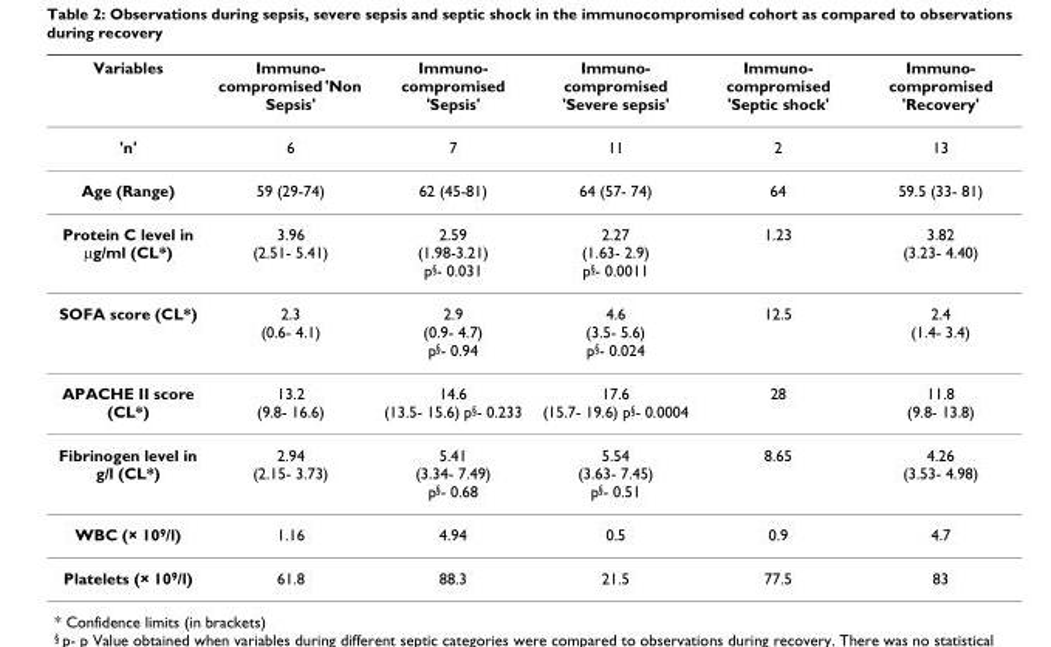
<table><thead><tr><td>Variables</td><td>Immuno- compromised &#x27;Non Sepsis&#x27;</td><td>Immuno- compromised &#x27;Sepsis&#x27;</td><td>Immuno- compromised &#x27;Severe sepsis&#x27;</td><td>Immuno- compromised &#x27;Septic shock&#x27;</td><td>Immuno- compromised &#x27;Recovery&#x27;</td></tr></thead><tbody><tr><td>&#x27;n&#x27;</td><td>6</td><td>7</td><td>11</td><td>2</td><td>13</td></tr><tr><td>Age (Range)</td><td>59 (29-74)</td><td>62 (45-81)</td><td>64 (57- 74)</td><td>64</td><td>59.5 (33- 81)</td></tr><tr><td>Protein C level in μg/ml (CL*)</td><td>3.96 (2.51- 5.41)</td><td>2.59 (1.98-3.21) p<sup>§</sup>- 0.031</td><td>2.27 (1.63- 2.9) p<sup>§</sup>- 0.0011</td><td>1.23</td><td>3.82 (3.23- 4.40)</td></tr><tr><td>SOFA score (CL*)</td><td>2.3 (0.6- 4.1)</td><td>2.9 (0.9- 4.7) p<sup>§</sup>- 0.94</td><td>4.6 (3.5- 5.6) p<sup>§</sup>- 0.024</td><td>12.5</td><td>2.4 (1.4- 3.4)</td></tr><tr><td>APACHE II score (CL*)</td><td>13.2 (9.8- 16.6)</td><td>14.6 (13.5- 15.6) p<sup>§</sup>- 0.233</td><td>17.6 (15.7- 19.6) p<sup>§</sup>- 0.0004</td><td>28</td><td>11.8 (9.8- 13.8)</td></tr><tr><td>Fibrinogen level in g/l (CL*)</td><td>2.94 (2.15- 3.73)</td><td>5.41 (3.34- 7.49) p<sup>§</sup>- 0.68</td><td>5.54 (3.63- 7.45) p<sup>§</sup>- 0.51</td><td>8.65</td><td>4.26 (3.53- 4.98)</td></tr><tr><td>WBC (× 10<sup>9</sup>/l)</td><td>1.16</td><td>4.94</td><td>0.5</td><td>0.9</td><td>4.7</td></tr><tr><td>Platelets (× 10<sup>9</sup>/l)</td><td>61.8</td><td>88.3</td><td>21.5</td><td>77.5</td><td>83</td></tr></tbody></table>